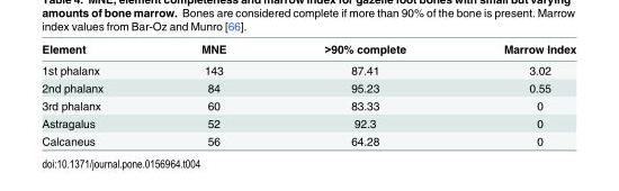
<table><thead><tr><td>Element</td><td>MNE</td><td>&gt;90% complete</td><td>Marrow Index</td></tr></thead><tbody><tr><td>1st phalanx</td><td>143</td><td>87.41</td><td>3.02</td></tr><tr><td>2nd phalanx</td><td>84</td><td>95.23</td><td>0.55</td></tr><tr><td>3rd phalanx</td><td>60</td><td>83.33</td><td>0</td></tr><tr><td>Astragalus</td><td>52</td><td>92.3</td><td>0</td></tr><tr><td>Calcaneus</td><td>56</td><td>64.28</td><td>0</td></tr></tbody></table>